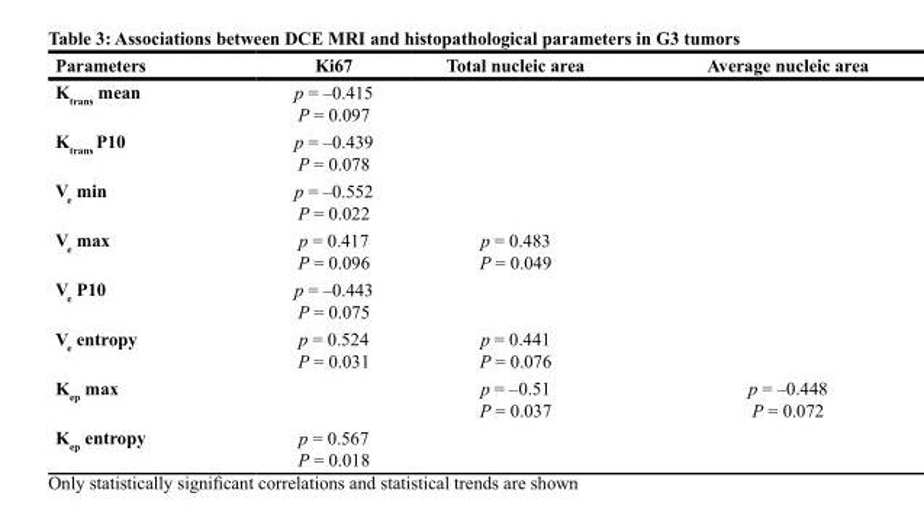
<table><thead><tr><td>Parameters</td><td>Ki67</td><td>Total nucleic area</td><td>Average nucleic area</td></tr></thead><tbody><tr><td>K<sub>trans</sub> mean</td><td>p = –0.415 P = 0.097</td><td></td><td></td></tr><tr><td>K<sub>trans</sub> P10</td><td>p = –0.439 P = 0.078</td><td></td><td></td></tr><tr><td>V<sub>e</sub> min</td><td>p = –0.552 P = 0.022</td><td></td><td></td></tr><tr><td>V<sub>e</sub> max</td><td>p = 0.417 P = 0.096</td><td>p = 0.483 P = 0.049</td><td></td></tr><tr><td>V<sub>e</sub> P10</td><td>p = –0.443 P = 0.075</td><td></td><td></td></tr><tr><td>V<sub>e</sub> entropy</td><td>p = 0.524 P = 0.031</td><td>p = 0.441 P = 0.076</td><td></td></tr><tr><td>K<sub>ep</sub> max</td><td></td><td>p = –0.51 P = 0.037</td><td>p = –0.448 P = 0.072</td></tr><tr><td>K<sub>ep</sub> entropy</td><td>p = 0.567 P = 0.018</td><td></td><td></td></tr></tbody></table>